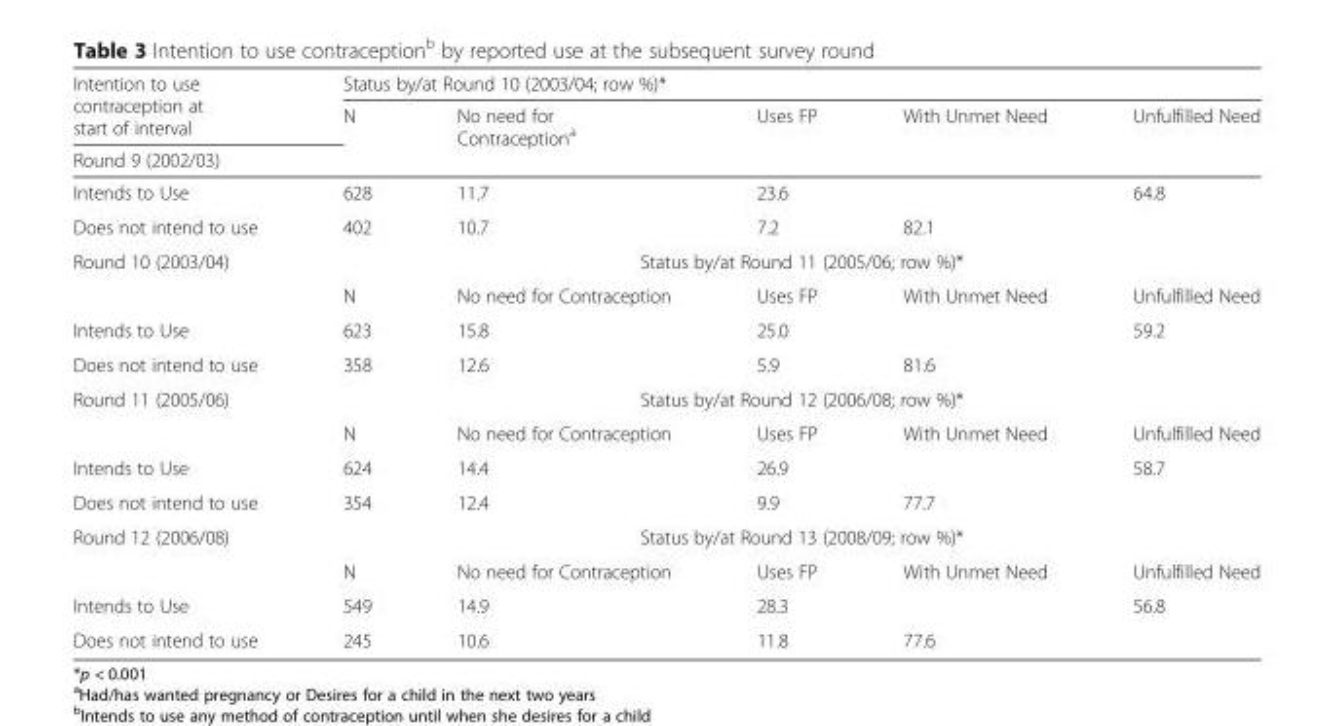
<table><thead><tr><td rowspan="3">Intention to use contraception at start of interval Round 9 (2002/03)</td><td colspan="5">Status by/at Round 10 (2003/04; row %)*</td></tr><tr><td rowspan="2">N</td><td rowspan="2">No need for Contraception<sup>a</sup></td><td rowspan="2">Uses FP</td><td rowspan="2">With Unmet Need</td><td rowspan="2">Unfulfilled Need</td></tr><tr></tr></thead><tbody><tr><td>Intends to Use</td><td>628</td><td>11.7</td><td>23.6</td><td></td><td>64.8</td></tr><tr><td>Does not intend to use</td><td>402</td><td>10.7</td><td>7.2</td><td>82.1</td><td></td></tr><tr><td rowspan="2">Round 10 (2003/04)</td><td colspan="5">Status by/at Round 11 (2005/06; row %)*</td></tr><tr><td>N</td><td>No need for Contraception</td><td>Uses FP</td><td>With Unmet Need</td><td>Unfulfilled Need</td></tr><tr><td>Intends to Use</td><td>623</td><td>15.8</td><td>25.0</td><td></td><td>59.2</td></tr><tr><td>Does not intend to use</td><td>358</td><td>12.6</td><td>5.9</td><td>81.6</td><td></td></tr><tr><td rowspan="2">Round 11 (2005/06)</td><td colspan="5">Status by/at Round 12 (2006/08; row %)*</td></tr><tr><td>N</td><td>No need for Contraception</td><td>Uses FP</td><td>With Unmet Need</td><td>Unfulfilled Need</td></tr><tr><td>Intends to Use</td><td>624</td><td>14.4</td><td>26.9</td><td></td><td>58.7</td></tr><tr><td>Does not intend to use</td><td>354</td><td>12.4</td><td>9.9</td><td>77.7</td><td></td></tr><tr><td rowspan="2">Round 12 (2006/08)</td><td colspan="5">Status by/at Round 13 (2008/09; row %)*</td></tr><tr><td>N</td><td>No need for Contraception</td><td>Uses FP</td><td>With Unmet Need</td><td>Unfulfilled Need</td></tr><tr><td>Intends to Use</td><td>549</td><td>14.9</td><td>28.3</td><td></td><td>56.8</td></tr><tr><td>Does not intend to use</td><td>245</td><td>10.6</td><td>11.8</td><td>77.6</td><td></td></tr></tbody></table>